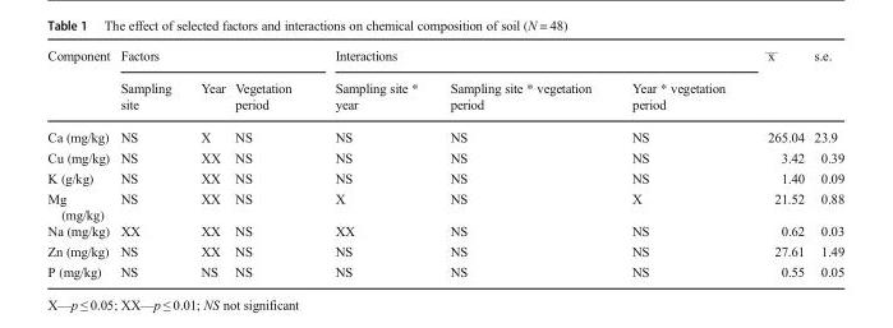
<table><thead><tr><td rowspan="2">Component</td><td colspan="3">Factors</td><td colspan="3">Interactions</td><td rowspan="2">x̅</td><td rowspan="2">s.e.</td></tr><tr><td>Sampling site</td><td>Year</td><td>Vegetation period</td><td>Sampling site * year</td><td>Sampling site * vegetation period</td><td>Year * vegetation period</td></tr></thead><tbody><tr><td>Ca (mg/kg)</td><td>NS</td><td>X</td><td>NS</td><td>NS</td><td>NS</td><td>NS</td><td>265.04</td><td>23.9</td></tr><tr><td>Cu (mg/kg)</td><td>NS</td><td>XX</td><td>NS</td><td>NS</td><td>NS</td><td>NS</td><td>3.42</td><td>0.39</td></tr><tr><td>K (g/kg)</td><td>NS</td><td>XX</td><td>NS</td><td>NS</td><td>NS</td><td>NS</td><td>1.40</td><td>0.09</td></tr><tr><td>Mg (mg/kg)</td><td>NS</td><td>XX</td><td>NS</td><td>X</td><td>NS</td><td>X</td><td>21.52</td><td>0.88</td></tr><tr><td>Na (mg/kg)</td><td>XX</td><td>XX</td><td>NS</td><td>XX</td><td>NS</td><td>NS</td><td>0.62</td><td>0.03</td></tr><tr><td>Zn (mg/kg)</td><td>NS</td><td>XX</td><td>NS</td><td>NS</td><td>NS</td><td>NS</td><td>27.61</td><td>1.49</td></tr><tr><td>P (mg/kg)</td><td>NS</td><td>NS</td><td>NS</td><td>NS</td><td>NS</td><td>NS</td><td>0.55</td><td>0.05</td></tr></tbody></table>